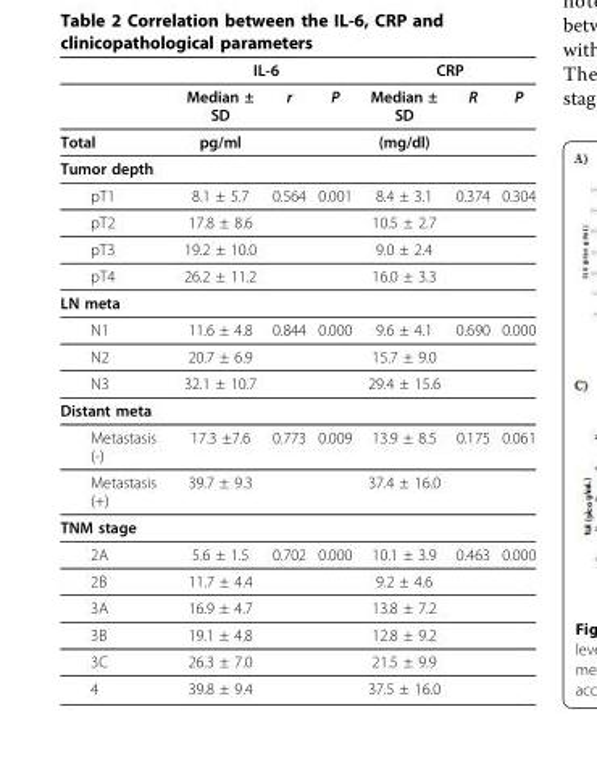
<table><thead><tr><td rowspan="2"></td><td colspan="3">IL-6</td><td colspan="3">CRP</td></tr><tr><td>Median ± SD</td><td>r</td><td>P</td><td>Median ± SD</td><td>R</td><td>P</td></tr></thead><tbody><tr><td>Total</td><td>pg/ml</td><td></td><td></td><td>(mg/dl)</td><td></td><td></td></tr><tr><td colspan="7">Tumor depth</td></tr><tr><td>pT1</td><td>8.1 ± 5.7</td><td>0.564</td><td>0.001</td><td>8.4 ± 3.1</td><td>0.374</td><td>0.304</td></tr><tr><td>pT2</td><td>17.8 ± 8.6</td><td></td><td></td><td>10.5 ± 2.7</td><td></td><td></td></tr><tr><td>pT3</td><td>19.2 ± 10.0</td><td></td><td></td><td>9.0 ± 2.4</td><td></td><td></td></tr><tr><td>pT4</td><td>26.2 ± 11.2</td><td></td><td></td><td>16.0 ± 3.3</td><td></td><td></td></tr><tr><td colspan="7">LN meta</td></tr><tr><td>N1</td><td>11.6 ± 4.8</td><td>0.844</td><td>0.000</td><td>9.6 ± 4.1</td><td>0.690</td><td>0.000</td></tr><tr><td>N2</td><td>20.7 ± 6.9</td><td></td><td></td><td>15.7 ± 9.0</td><td></td><td></td></tr><tr><td>N3</td><td>32.1 ± 10.7</td><td></td><td></td><td>29.4 ± 15.6</td><td></td><td></td></tr><tr><td colspan="7">Distant meta</td></tr><tr><td>Metastasis (-)</td><td>17.3 ±7.6</td><td>0.773</td><td>0.009</td><td>13.9 ± 8.5</td><td>0.175</td><td>0.061</td></tr><tr><td>Metastasis (+)</td><td>39.7 ± 9.3</td><td></td><td></td><td>37.4 ± 16.0</td><td></td><td></td></tr><tr><td colspan="7">TNM stage</td></tr><tr><td>2A</td><td>5.6 ± 1.5</td><td>0.702</td><td>0.000</td><td>10.1 ± 3.9</td><td>0.463</td><td>0.000</td></tr><tr><td>2B</td><td>11.7 ± 4.4</td><td></td><td></td><td>9.2 ± 4.6</td><td></td><td></td></tr><tr><td>3A</td><td>16.9 ± 4.7</td><td></td><td></td><td>13.8 ± 7.2</td><td></td><td></td></tr><tr><td>3B</td><td>19.1 ± 4.8</td><td></td><td></td><td>12.8 ± 9.2</td><td></td><td></td></tr><tr><td>3C</td><td>26.3 ± 7.0</td><td></td><td></td><td>21.5 ± 9.9</td><td></td><td></td></tr><tr><td>4</td><td>39.8 ± 9.4</td><td></td><td></td><td>37.5 ± 16.0</td><td></td><td></td></tr></tbody></table>